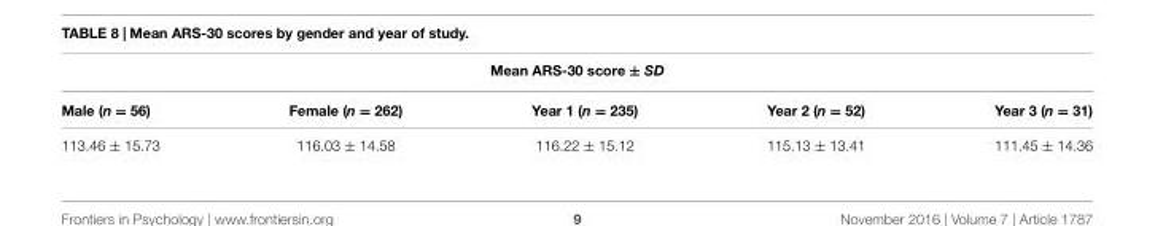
<table><thead><tr><td colspan="5">Mean ARS-30 score ± SD</td></tr><tr><td>Male (n = 56)</td><td>Female (n = 262)</td><td>Year 1 (n = 235)</td><td>Year 2 (n = 52)</td><td>Year 3 (n = 31)</td></tr></thead><tbody><tr><td>113.46 ± 15.73</td><td>116.03 ± 14.58</td><td>116.22 ± 15.12</td><td>115.13 ± 13.41</td><td>111.45 ± 14.36</td></tr></tbody></table>